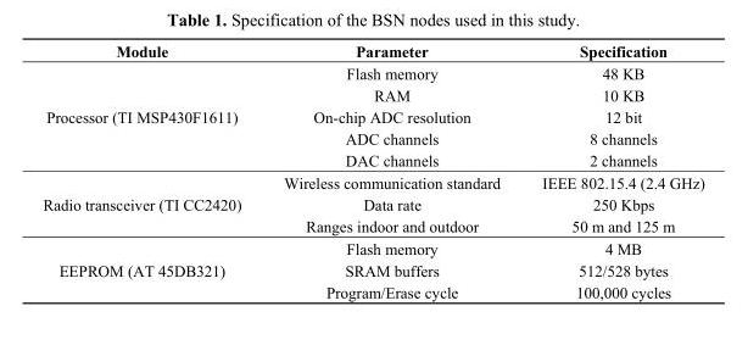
<table><thead><tr><td>Module</td><td>Parameter</td><td>Specification</td></tr></thead><tbody><tr><td rowspan="5">Processor (TI MSP430F1611)</td><td>Flash memory</td><td>48 KB</td></tr><tr><td>RAM</td><td>10 KB</td></tr><tr><td>On-chip ADC resolution</td><td>12 bit</td></tr><tr><td>ADC channels</td><td>8 channels</td></tr><tr><td>DAC channels</td><td>2 channels</td></tr><tr><td rowspan="3">Radio transceiver (TI CC2420)</td><td>Wireless communication standard</td><td>IEEE 802.15.4 (2.4 GHz)</td></tr><tr><td>Data rate</td><td>250 Kbps</td></tr><tr><td>Ranges indoor and outdoor</td><td>50 m and 125 m</td></tr><tr><td rowspan="3">EEPROM (AT 45DB321)</td><td>Flash memory</td><td>4 MB</td></tr><tr><td>SRAM buffers</td><td>512/528 bytes</td></tr><tr><td>Program/Erase cycle</td><td>100,000 cycles</td></tr></tbody></table>